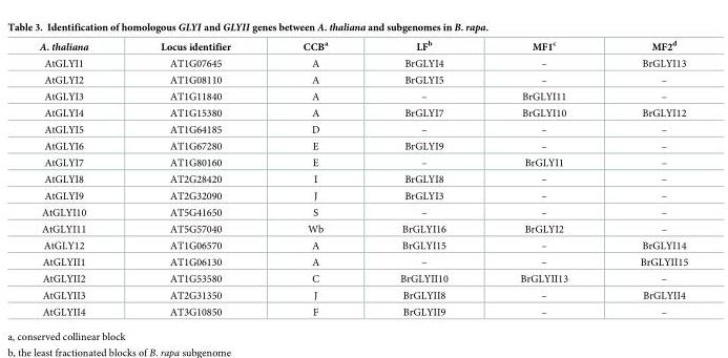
<table><thead><tr><td>A. thaliana</td><td>Locus identifier</td><td>CCB<sup>a</sup></td><td>LF<sup>b</sup></td><td>MF1<sup>c</sup></td><td>MF2<sup>d</sup></td></tr></thead><tbody><tr><td>AtGLYI1</td><td>AT1G07645</td><td>A</td><td>BrGLYI4</td><td>–</td><td>BrGLYI13</td></tr><tr><td>AtGLYI2</td><td>AT1G08110</td><td>A</td><td>BrGLYI5</td><td>–</td><td>–</td></tr><tr><td>AtGLYI3</td><td>AT1G11840</td><td>A</td><td>–</td><td>BrGLYI11</td><td>–</td></tr><tr><td>AtGLYI4</td><td>AT1G15380</td><td>A</td><td>BrGLYI7</td><td>BrGLYI10</td><td>BrGLYI12</td></tr><tr><td>AtGLYI5</td><td>AT1G64185</td><td>D</td><td>–</td><td>–</td><td>–</td></tr><tr><td>AtGLYI6</td><td>AT1G67280</td><td>E</td><td>BrGLYI9</td><td>–</td><td>–</td></tr><tr><td>AtGLYI7</td><td>AT1G80160</td><td>E</td><td>–</td><td>BrGLYI1</td><td>–</td></tr><tr><td>AtGLYI8</td><td>AT2G28420</td><td>I</td><td>BrGLYI8</td><td>–</td><td>–</td></tr><tr><td>AtGLYI9</td><td>AT2G32090</td><td>J</td><td>BrGLYI3</td><td>–</td><td>–</td></tr><tr><td>AtGLYI10</td><td>AT5G41650</td><td>S</td><td>–</td><td>–</td><td>–</td></tr><tr><td>AtGLYI11</td><td>AT5G57040</td><td>Wb</td><td>BrGLYI16</td><td>BrGLYI2</td><td>–</td></tr><tr><td>AtGLY12</td><td>AT1G06570</td><td>A</td><td>BrGLYI15</td><td>–</td><td>BrGLYI14</td></tr><tr><td>AtGLYII1</td><td>AT1G06130</td><td>A</td><td>–</td><td>–</td><td>BrGLYII15</td></tr><tr><td>AtGLYII2</td><td>AT1G53580</td><td>C</td><td>BrGLYII10</td><td>BrGLYII13</td><td>–</td></tr><tr><td>AtGLYII3</td><td>AT2G31350</td><td>J</td><td>BrGLYII8</td><td>–</td><td>BrGLYII4</td></tr><tr><td>AtGLYII4</td><td>AT3G10850</td><td>F</td><td>BrGLYII9</td><td>–</td><td>–</td></tr></tbody></table>